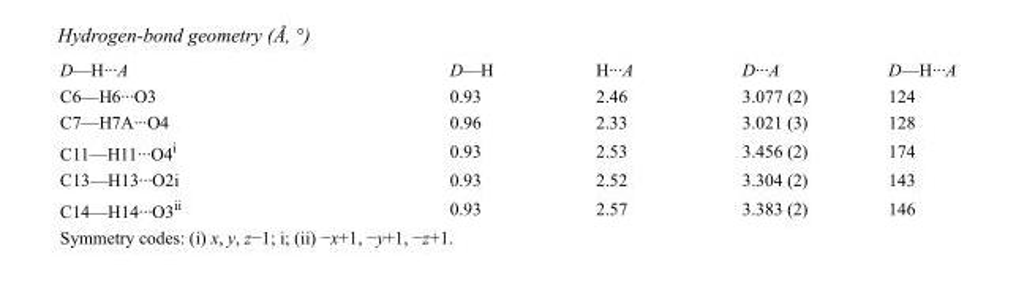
<table><tbody><tr><td>D—H···A</td><td>D—H</td><td>H···A</td><td>D···A</td><td>D—H···A</td></tr><tr><td>C6—H6···O3</td><td>0.93</td><td>2.46</td><td>3.077 (2)</td><td>124</td></tr><tr><td>C7—H7A···O4</td><td>0.96</td><td>2.33</td><td>3.021 (3)</td><td>128</td></tr><tr><td>C11—H11···O4<sup>i</sup></td><td>0.93</td><td>2.53</td><td>3.456 (2)</td><td>174</td></tr><tr><td>C13—H13···O2i</td><td>0.93</td><td>2.52</td><td>3.304 (2)</td><td>143</td></tr><tr><td>C14—H14···O3<sup>ii</sup></td><td>0.93</td><td>2.57</td><td>3.383 (2)</td><td>146</td></tr></tbody></table>